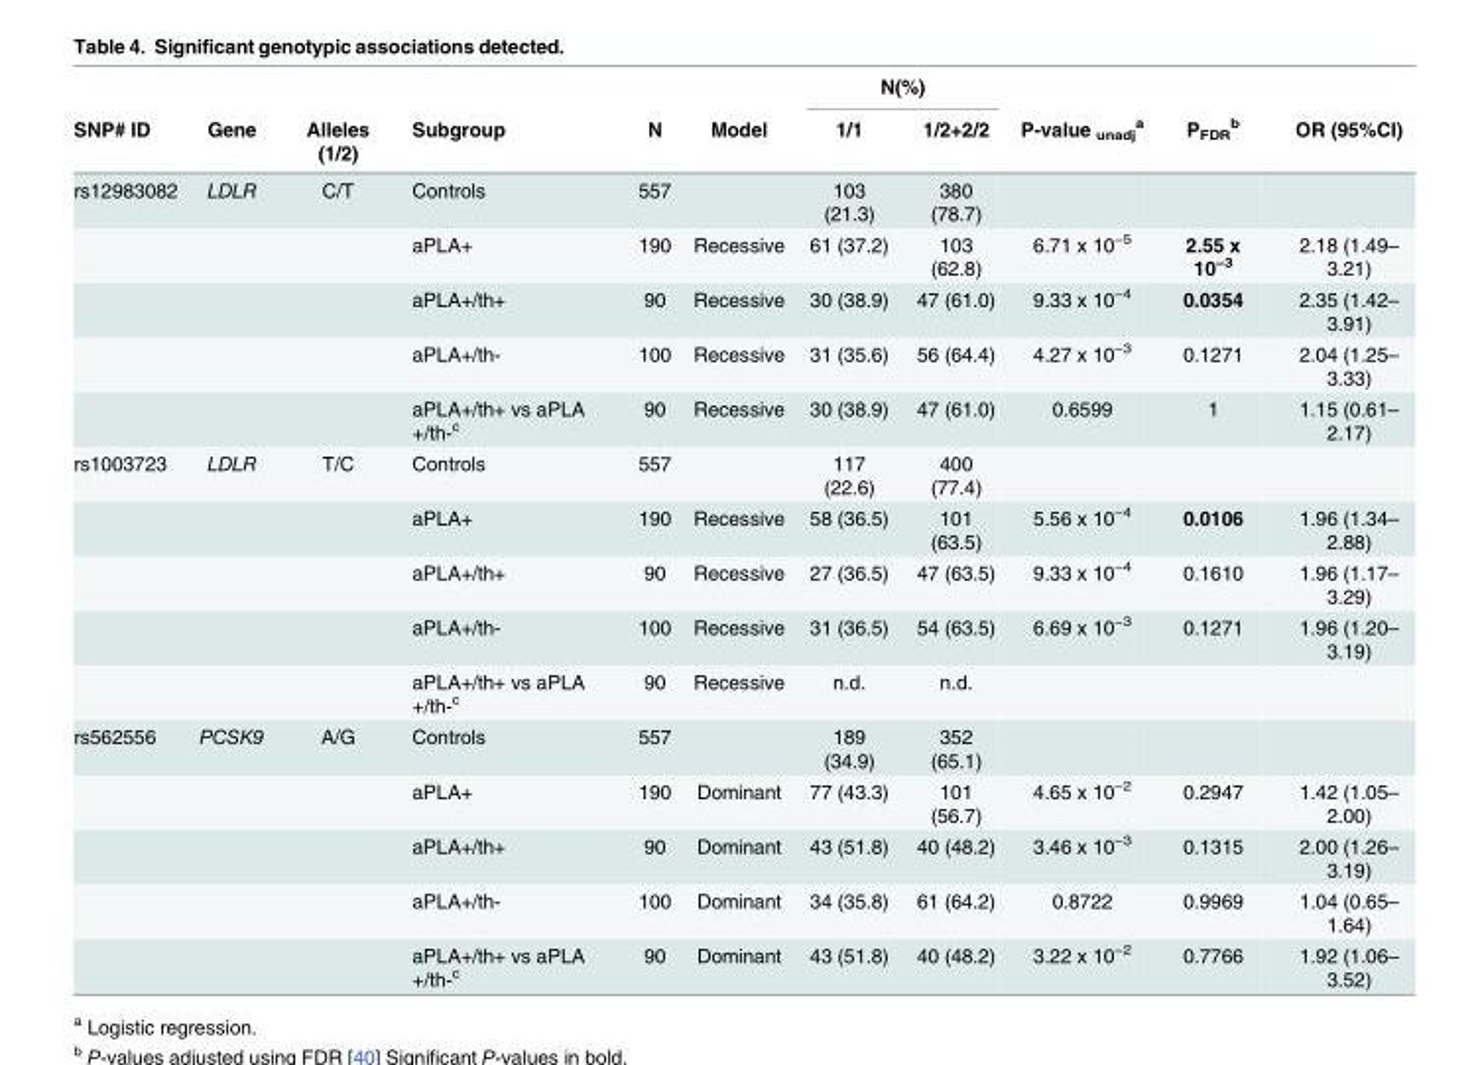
<table><thead><tr><td rowspan="2">SNP# ID</td><td rowspan="2">Gene</td><td rowspan="2">Alleles (1/2)</td><td rowspan="2">Subgroup</td><td rowspan="2">N</td><td rowspan="2">Model</td><td colspan="2">N(%)</td><td rowspan="2">P-value <sub>unadj</sub> <sup>a</sup></td><td rowspan="2">P<sub>FDR</sub> <sup>b</sup></td><td rowspan="2">OR (95%CI)</td></tr><tr><td>1/1</td><td>1/2+2/2</td></tr></thead><tbody><tr><td rowspan="5">rs12983082</td><td>LDLR</td><td>C/T</td><td>Controls</td><td>557</td><td></td><td>103 (21.3)</td><td>380 (78.7)</td><td></td><td></td><td></td></tr><tr><td></td><td></td><td>aPLA+</td><td>190</td><td>Recessive</td><td>61 (37.2)</td><td>103 (62.8)</td><td>6.71 x 10<sup>−5</sup></td><td>2.55 x 10<sup>−3</sup></td><td>2.18 (1.49– 3.21)</td></tr><tr><td></td><td></td><td>aPLA+/th+</td><td>90</td><td>Recessive</td><td>30 (38.9)</td><td>47 (61.0)</td><td>9.33 x 10<sup>−4</sup></td><td>0.0354</td><td>2.35 (1.42– 3.91)</td></tr><tr><td></td><td></td><td>aPLA+/th-</td><td>100</td><td>Recessive</td><td>31 (35.6)</td><td>56 (64.4)</td><td>4.27 x 10<sup>−3</sup></td><td>0.1271</td><td>2.04 (1.25– 3.33)</td></tr><tr><td></td><td></td><td>aPLA+/th+ vs aPLA +/th-<sup>c</sup></td><td>90</td><td>Recessive</td><td>30 (38.9)</td><td>47 (61.0)</td><td>0.6599</td><td>1</td><td>1.15 (0.61– 2.17)</td></tr><tr><td rowspan="5">rs1003723</td><td>LDLR</td><td>T/C</td><td>Controls</td><td>557</td><td></td><td>117 (22.6)</td><td>400 (77.4)</td><td></td><td></td><td></td></tr><tr><td></td><td></td><td>aPLA+</td><td>190</td><td>Recessive</td><td>58 (36.5)</td><td>101 (63.5)</td><td>5.56 x 10<sup>−4</sup></td><td>0.0106</td><td>1.96 (1.34– 2.88)</td></tr><tr><td></td><td></td><td>aPLA+/th+</td><td>90</td><td>Recessive</td><td>27 (36.5)</td><td>47 (63.5)</td><td>9.33 x 10<sup>−4</sup></td><td>0.1610</td><td>1.96 (1.17– 3.29)</td></tr><tr><td></td><td></td><td>aPLA+/th-</td><td>100</td><td>Recessive</td><td>31 (36.5)</td><td>54 (63.5)</td><td>6.69 x 10<sup>−3</sup></td><td>0.1271</td><td>1.96 (1.20– 3.19)</td></tr><tr><td></td><td></td><td>aPLA+/th+ vs aPLA +/th-<sup>c</sup></td><td>90</td><td>Recessive</td><td>n.d.</td><td>n.d.</td><td></td><td></td><td></td></tr><tr><td rowspan="5">rs562556</td><td>PCSK9</td><td>A/G</td><td>Controls</td><td>557</td><td></td><td>189 (34.9)</td><td>352 (65.1)</td><td></td><td></td><td></td></tr><tr><td></td><td></td><td>aPLA+</td><td>190</td><td>Dominant</td><td>77 (43.3)</td><td>101 (56.7)</td><td>4.65 x 10<sup>−2</sup></td><td>0.2947</td><td>1.42 (1.05– 2.00)</td></tr><tr><td></td><td></td><td>aPLA+/th+</td><td>90</td><td>Dominant</td><td>43 (51.8)</td><td>40 (48.2)</td><td>3.46 x 10<sup>−3</sup></td><td>0.1315</td><td>2.00 (1.26– 3.19)</td></tr><tr><td></td><td></td><td>aPLA+/th-</td><td>100</td><td>Dominant</td><td>34 (35.8)</td><td>61 (64.2)</td><td>0.8722</td><td>0.9969</td><td>1.04 (0.65– 1.64)</td></tr><tr><td></td><td></td><td>aPLA+/th+ vs aPLA +/th-<sup>c</sup></td><td>90</td><td>Dominant</td><td>43 (51.8)</td><td>40 (48.2)</td><td>3.22 x 10<sup>−2</sup></td><td>0.7766</td><td>1.92 (1.06– 3.52)</td></tr></tbody></table>